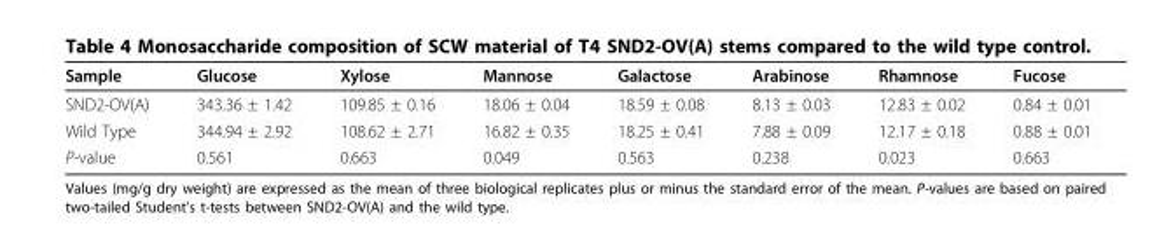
<table><thead><tr><td>Sample</td><td>Glucose</td><td>Xylose</td><td>Mannose</td><td>Galactose</td><td>Arabinose</td><td>Rhamnose</td><td>Fucose</td></tr></thead><tbody><tr><td>SND2-OV(A)</td><td>343.36 ± 1.42</td><td>109.85 ± 0.16</td><td>18.06 ± 0.04</td><td>18.59 ± 0.08</td><td>8.13 ± 0.03</td><td>12.83 ± 0.02</td><td>0.84 ± 0.01</td></tr><tr><td>Wild Type</td><td>344.94 ± 2.92</td><td>108.62 ± 2.71</td><td>16.82 ± 0.35</td><td>18.25 ± 0.41</td><td>7.88 ± 0.09</td><td>12.17 ± 0.18</td><td>0.88 ± 0.01</td></tr><tr><td>P-value</td><td>0.561</td><td>0.663</td><td>0.049</td><td>0.563</td><td>0.238</td><td>0.023</td><td>0.663</td></tr></tbody></table>